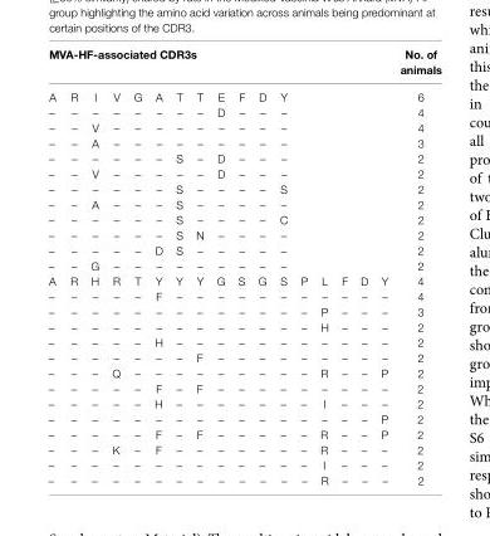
<table><thead><tr><td colspan="17">MVa-hF-associated cDr3s</td><td rowspan="2">no. of animals 6</td></tr><tr><td>A</td><td>R</td><td>I</td><td>V</td><td>G</td><td>A</td><td>T</td><td>T</td><td>E</td><td>F</td><td>D</td><td>Y</td><td></td><td></td><td></td><td></td><td></td></tr></thead><tbody><tr><td>–</td><td>–</td><td>–</td><td>–</td><td>–</td><td>–</td><td>–</td><td>–</td><td>D</td><td>–</td><td>–</td><td>–</td><td></td><td></td><td></td><td></td><td></td><td>4</td></tr><tr><td>–</td><td>–</td><td>V</td><td>–</td><td>–</td><td>–</td><td>–</td><td>–</td><td>–</td><td>–</td><td>–</td><td>–</td><td></td><td></td><td></td><td></td><td></td><td>4</td></tr><tr><td>–</td><td>–</td><td>A</td><td>–</td><td>–</td><td>–</td><td>–</td><td>–</td><td>–</td><td>–</td><td>–</td><td>–</td><td></td><td></td><td></td><td></td><td></td><td>3</td></tr><tr><td>–</td><td>–</td><td>–</td><td>–</td><td>–</td><td>–</td><td>S</td><td>–</td><td>D</td><td>–</td><td>–</td><td>–</td><td></td><td></td><td></td><td></td><td></td><td>2</td></tr><tr><td>–</td><td>–</td><td>V</td><td>–</td><td>–</td><td>–</td><td>–</td><td>–</td><td>D</td><td>–</td><td>–</td><td>–</td><td></td><td></td><td></td><td></td><td></td><td>2</td></tr><tr><td>–</td><td>–</td><td>–</td><td>–</td><td>–</td><td>–</td><td>S</td><td>–</td><td>–</td><td>–</td><td>–</td><td>S</td><td></td><td></td><td></td><td></td><td></td><td>2</td></tr><tr><td>–</td><td>–</td><td>A</td><td>–</td><td>–</td><td>–</td><td>S</td><td>–</td><td>–</td><td>–</td><td>–</td><td>–</td><td></td><td></td><td></td><td></td><td></td><td>2</td></tr><tr><td>–</td><td>–</td><td>–</td><td>–</td><td>–</td><td>–</td><td>S</td><td>–</td><td>–</td><td>–</td><td>–</td><td>C</td><td></td><td></td><td></td><td></td><td></td><td>2</td></tr><tr><td>–</td><td>–</td><td>–</td><td>–</td><td>–</td><td>–</td><td>S</td><td>N</td><td>–</td><td>–</td><td>–</td><td>–</td><td></td><td></td><td></td><td></td><td></td><td>2</td></tr><tr><td>–</td><td>–</td><td>–</td><td>–</td><td>–</td><td>D</td><td>S</td><td>–</td><td>–</td><td>–</td><td>–</td><td>–</td><td></td><td></td><td></td><td></td><td></td><td>2</td></tr><tr><td>–</td><td>–</td><td>G</td><td>–</td><td>–</td><td>–</td><td>–</td><td>–</td><td>–</td><td>–</td><td>–</td><td>–</td><td></td><td></td><td></td><td></td><td></td><td>2</td></tr><tr><td>A</td><td>R</td><td>H</td><td>R</td><td>T</td><td>Y</td><td>Y</td><td>Y</td><td>G</td><td>S</td><td>G</td><td>S</td><td>P</td><td>L</td><td>F</td><td>D</td><td>Y</td><td>4</td></tr><tr><td>–</td><td>–</td><td>–</td><td>–</td><td>–</td><td>F</td><td>–</td><td>–</td><td>–</td><td>–</td><td>–</td><td>–</td><td>–</td><td>–</td><td>–</td><td>–</td><td>–</td><td>4</td></tr><tr><td>–</td><td>–</td><td>–</td><td>–</td><td>–</td><td>–</td><td>–</td><td>–</td><td>–</td><td>–</td><td>–</td><td>–</td><td>–</td><td>P</td><td>–</td><td>–</td><td>–</td><td>3</td></tr><tr><td>–</td><td>–</td><td>–</td><td>–</td><td>–</td><td>–</td><td>–</td><td>–</td><td>–</td><td>–</td><td>–</td><td>–</td><td>–</td><td>H</td><td>–</td><td>–</td><td>–</td><td>2</td></tr><tr><td>–</td><td>–</td><td>–</td><td>–</td><td>–</td><td>H</td><td>–</td><td>–</td><td>–</td><td>–</td><td>–</td><td>–</td><td>–</td><td>–</td><td>–</td><td>–</td><td>–</td><td>2</td></tr><tr><td>–</td><td>–</td><td>–</td><td>–</td><td>–</td><td>–</td><td>–</td><td>F</td><td>–</td><td>–</td><td>–</td><td>–</td><td>–</td><td>–</td><td>–</td><td>–</td><td>–</td><td>2</td></tr><tr><td>–</td><td>–</td><td>–</td><td>Q</td><td>–</td><td>–</td><td>–</td><td>–</td><td>–</td><td>–</td><td>–</td><td>–</td><td>–</td><td>R</td><td>–</td><td>–</td><td>P</td><td>2</td></tr><tr><td>–</td><td>–</td><td>–</td><td>–</td><td>–</td><td>F</td><td>–</td><td>F</td><td>–</td><td>–</td><td>–</td><td>–</td><td>–</td><td>–</td><td>–</td><td>–</td><td>–</td><td>2</td></tr><tr><td>–</td><td>–</td><td>–</td><td>–</td><td>–</td><td>H</td><td>–</td><td>–</td><td>–</td><td>–</td><td>–</td><td>–</td><td>–</td><td>I</td><td>–</td><td>–</td><td>–</td><td>2</td></tr><tr><td>–</td><td>–</td><td>–</td><td>–</td><td>–</td><td>–</td><td>–</td><td>–</td><td>–</td><td>–</td><td>–</td><td>–</td><td>–</td><td>–</td><td>–</td><td>–</td><td>P</td><td>2</td></tr><tr><td>–</td><td>–</td><td>–</td><td>–</td><td>–</td><td>F</td><td>–</td><td>F</td><td>–</td><td>–</td><td>–</td><td>–</td><td>–</td><td>R</td><td>–</td><td>–</td><td>P</td><td>2</td></tr><tr><td>–</td><td>–</td><td>–</td><td>K</td><td>–</td><td>F</td><td>–</td><td>–</td><td>–</td><td>–</td><td>–</td><td>–</td><td>–</td><td>R</td><td>–</td><td>–</td><td>–</td><td>2</td></tr><tr><td>–</td><td>–</td><td>–</td><td>–</td><td>–</td><td>–</td><td>–</td><td>–</td><td>–</td><td>–</td><td>–</td><td>–</td><td>–</td><td>I</td><td>–</td><td>–</td><td>–</td><td>2</td></tr><tr><td>–</td><td>–</td><td>–</td><td>–</td><td>–</td><td>–</td><td>–</td><td>–</td><td>–</td><td>–</td><td>–</td><td>–</td><td>–</td><td>R</td><td>–</td><td>–</td><td>–</td><td>2</td></tr></tbody></table>